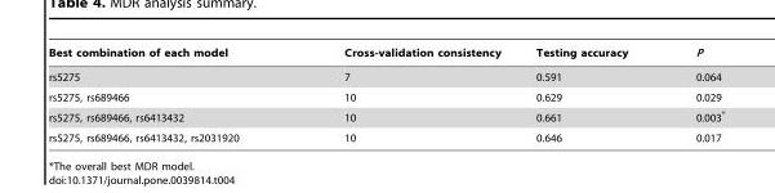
<table><thead><tr><td>Best combination of each model</td><td>Cross-validation consistency</td><td>Testing accuracy</td><td>P</td></tr></thead><tbody><tr><td>rs5275</td><td>7</td><td>0.591</td><td>0.064</td></tr><tr><td>rs5275, rs689466</td><td>10</td><td>0.629</td><td>0.029</td></tr><tr><td>rs5275, rs689466, rs6413432</td><td>10</td><td>0.661</td><td>0.003*</td></tr><tr><td>rs5275, rs689466, rs6413432, rs2031920</td><td>10</td><td>0.646</td><td>0.017</td></tr></tbody></table>